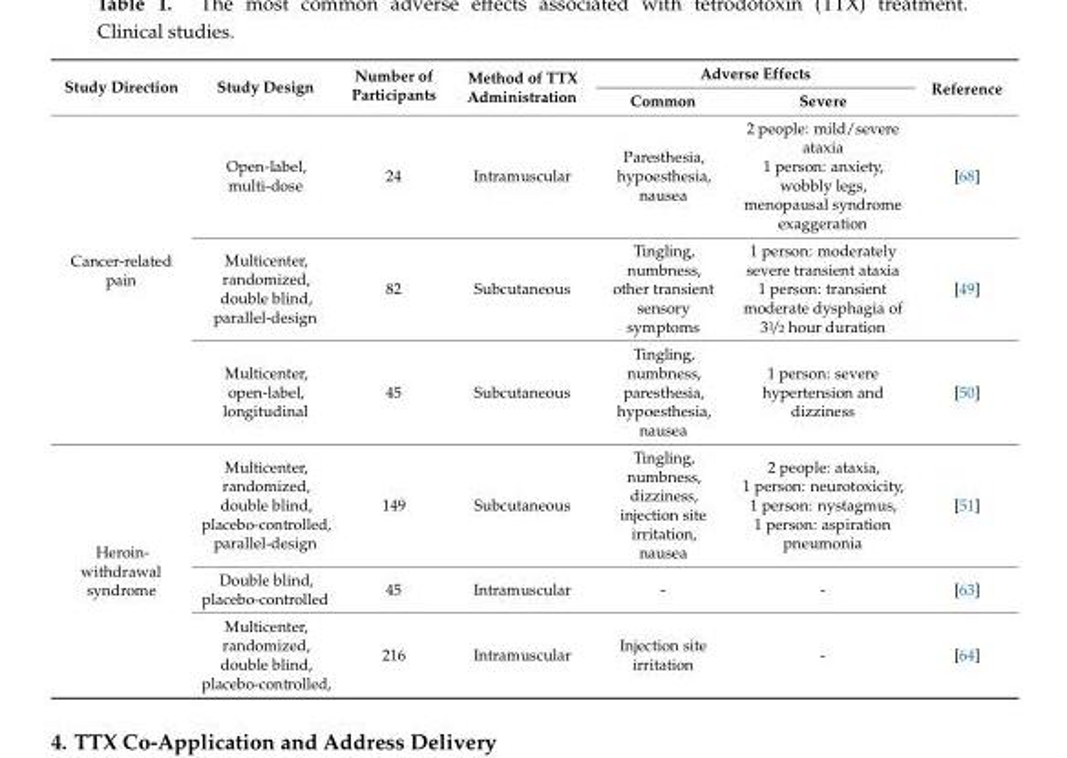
<table><thead><tr><td rowspan="2">Study Direction</td><td rowspan="2">Study Design</td><td rowspan="2">Number of Participants</td><td rowspan="2">Method of TTX Administration</td><td colspan="2">Adverse Effects</td><td rowspan="2">Reference</td></tr><tr><td>Common</td><td>Severe</td></tr></thead><tbody><tr><td rowspan="3">Cancer-related pain</td><td>Open-label, multi-dose</td><td>24</td><td>Intramuscular</td><td>Paresthesia, hypoesthesia, nausea</td><td>2 people: mild/severe ataxia 1 person: anxiety, wobbly legs, menopausal syndrome exaggeration</td><td>[68]</td></tr><tr><td>Multicenter, randomized, double blind, parallel-design</td><td>82</td><td>Subcutaneous</td><td>Tingling, numbness, other transient sensory symptoms</td><td>1 person: moderately severe transient ataxia 1 person: transient moderate dysphagia of 31/2 hour duration</td><td>[49]</td></tr><tr><td>Multicenter, open-label, longitudinal</td><td>45</td><td>Subcutaneous</td><td>Tingling, numbness, paresthesia, hypoesthesia, nausea</td><td>1 person: severe hypertension and dizziness</td><td>[50]</td></tr><tr><td rowspan="3">Heroin- withdrawal syndrome</td><td>Multicenter, randomized, double blind, placebo-controlled, parallel-design</td><td>149</td><td>Subcutaneous</td><td>Tingling, numbness, dizziness, injection site irritation, nausea</td><td>2 people: ataxia, 1 person: neurotoxicity, 1 person: nystagmus, 1 person: aspiration pneumonia</td><td>[51]</td></tr><tr><td>Double blind, placebo-controlled</td><td>45</td><td>Intramuscular</td><td>-</td><td>-</td><td>[63]</td></tr><tr><td>Multicenter, randomized, double blind, placebo-controlled,</td><td>216</td><td>Intramuscular</td><td>Injection site irritation</td><td>-</td><td>[64]</td></tr></tbody></table>